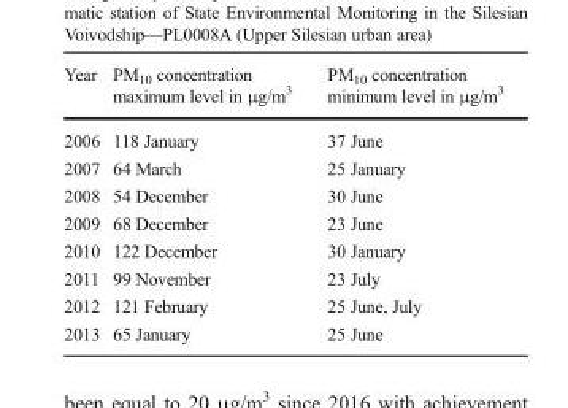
<table><thead><tr><td>Year</td><td>PM<sub>10</sub> concentration maximum level in μg/m<sup>3</sup></td><td>PM<sub>10</sub> concentration minimum level in μg/m<sup>3</sup></td></tr></thead><tbody><tr><td>2006</td><td>118 January</td><td>37 June</td></tr><tr><td>2007</td><td>64 March</td><td>25 January</td></tr><tr><td>2008</td><td>54 December</td><td>30 June</td></tr><tr><td>2009</td><td>68 December</td><td>23 June</td></tr><tr><td>2010</td><td>122 December</td><td>30 January</td></tr><tr><td>2011</td><td>99 November</td><td>23 July</td></tr><tr><td>2012</td><td>121 February</td><td>25 June, July</td></tr><tr><td>2013</td><td>65 January</td><td>25 June</td></tr></tbody></table>